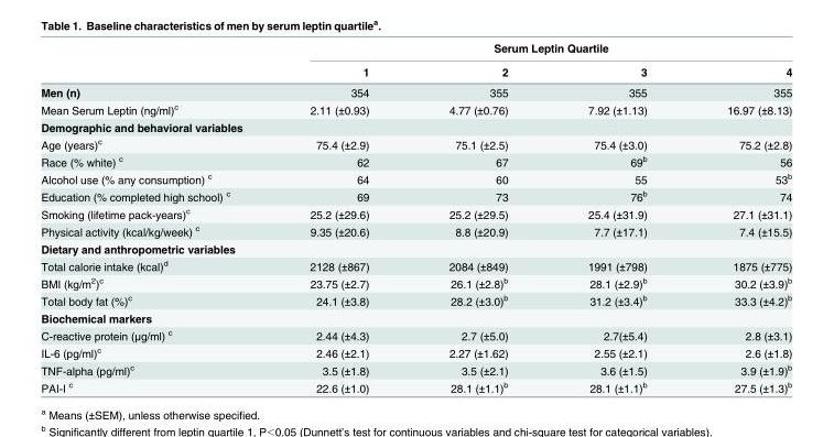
<table><thead><tr><td rowspan="2"></td><td colspan="4">Serum Leptin Quartile</td></tr><tr><td>1</td><td>2</td><td>3</td><td>4</td></tr></thead><tbody><tr><td>Men (n)</td><td>354</td><td>355</td><td>355</td><td>355</td></tr><tr><td>Mean Serum Leptin (ng/ml)<sup>c</sup></td><td>2.11 (±0.93)</td><td>4.77 (±0.76)</td><td>7.92 (±1.13)</td><td>16.97 (±8.13)</td></tr><tr><td colspan="5">Demographic and behavioral variables</td></tr><tr><td>Age (years)<sup>c</sup></td><td>75.4 (±2.9)</td><td>75.1 (±2.5)</td><td>75.4 (±3.0)</td><td>75.2 (±2.8)</td></tr><tr><td>Race (% white) <sup>c</sup></td><td>62</td><td>67</td><td>69<sup>b</sup></td><td>56</td></tr><tr><td>Alcohol use (% any consumption) <sup>c</sup></td><td>64</td><td>60</td><td>55</td><td>53<sup>b</sup></td></tr><tr><td>Education (% completed high school) <sup>c</sup></td><td>69</td><td>73</td><td>76<sup>b</sup></td><td>74</td></tr><tr><td>Smoking (lifetime pack-years)<sup>c</sup></td><td>25.2 (±29.6)</td><td>25.2 (±29.5)</td><td>25.4 (±31.9)</td><td>27.1 (±31.1)</td></tr><tr><td>Physical activity (kcal/kg/week) <sup>c</sup></td><td>9.35 (±20.6)</td><td>8.8 (±20.9)</td><td>7.7 (±17.1)</td><td>7.4 (±15.5)</td></tr><tr><td colspan="5">Dietary and anthropometric variables</td></tr><tr><td>Total calorie intake (kcal)<sup>d</sup></td><td>2128 (±867)</td><td>2084 (±849)</td><td>1991 (±798)</td><td>1875 (±775)</td></tr><tr><td>BMI (kg/m<sup>2</sup>)<sup>c</sup></td><td>23.75 (±2.7)</td><td>26.1 (±2.8)<sup>b</sup></td><td>28.1 (±2.9)<sup>b</sup></td><td>30.2 (±3.9)<sup>b</sup></td></tr><tr><td>Total body fat (%)<sup>c</sup></td><td>24.1 (±3.8)</td><td>28.2 (±3.0)<sup>b</sup></td><td>31.2 (±3.4)<sup>b</sup></td><td>33.3 (±4.2)<sup>b</sup></td></tr><tr><td colspan="5">Biochemical markers</td></tr><tr><td>C-reactive protein (μg/ml) <sup>c</sup></td><td>2.44 (±4.3)</td><td>2.7 (±5.0)</td><td>2.7(±5.4)</td><td>2.8 (±3.1)</td></tr><tr><td>IL-6 (pg/ml)<sup>c</sup></td><td>2.46 (±2.1)</td><td>2.27 (±1.62)</td><td>2.55 (±2.1)</td><td>2.6 (±1.8)</td></tr><tr><td>TNF-alpha (pg/ml)<sup>c</sup></td><td>3.5 (±1.8)</td><td>3.5 (±2.1)</td><td>3.6 (±1.5)</td><td>3.9 (±1.9)<sup>b</sup></td></tr><tr><td>PAI-I <sup>c</sup></td><td>22.6 (±1.0)</td><td>28.1 (±1.1)<sup>b</sup></td><td>28.1 (±1.1)<sup>b</sup></td><td>27.5 (±1.3)<sup>b</sup></td></tr></tbody></table>